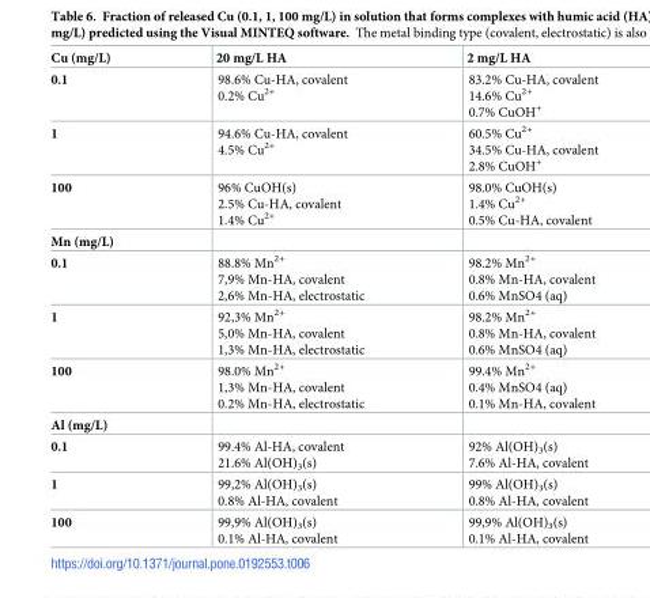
<table><thead><tr><td>Cu (mg/L)</td><td>20 mg/L HA</td><td>2 mg/L HA</td></tr></thead><tbody><tr><td>0.1</td><td>98.6% Cu-HA, covalent 0.2% Cu<sup>2+</sup></td><td>83.2% Cu-HA, covalent 14.6% Cu<sup>2+</sup> 0.7% CuOH<sup>+</sup></td></tr><tr><td>1</td><td>94.6% Cu-HA, covalent 4.5% Cu<sup>2+</sup></td><td>60.5% Cu<sup>2+</sup> 34.5% Cu-HA, covalent 2.8% CuOH<sup>+</sup></td></tr><tr><td>100</td><td>96% CuOH(s) 2.5% Cu-HA, covalent 1.4% Cu<sup>2+</sup></td><td>98.0% CuOH(s) 1.4% Cu<sup>2+</sup> 0.5% Cu-HA, covalent</td></tr><tr><td colspan="3">Mn (mg/L)</td></tr><tr><td>0.1</td><td>88.8% Mn<sup>2+</sup> 7,9% Mn-HA, covalent 2,6% Mn-HA, electrostatic</td><td>98.2% Mn<sup>2+</sup> 0.8% Mn-HA, covalent 0.6% MnSO4 (aq)</td></tr><tr><td>1</td><td>92,3% Mn<sup>2+</sup> 5,0% Mn-HA, covalent 1,3% Mn-HA, electrostatic</td><td>98.2% Mn<sup>2+</sup> 0.8% Mn-HA, covalent 0.6% MnSO4 (aq)</td></tr><tr><td>100</td><td>98.0% Mn<sup>2+</sup> 1,3% Mn-HA, covalent 0.2% Mn-HA, electrostatic</td><td>99.4% Mn<sup>2+</sup> 0.4% MnSO4 (aq) 0.1% Mn-HA, covalent</td></tr><tr><td colspan="3">Al (mg/L)</td></tr><tr><td>0.1</td><td>99.4% Al-HA, covalent 21.6% Al(OH)<sub>3</sub>(s)</td><td>92% Al(OH)<sub>3</sub>(s) 7.6% Al-HA, covalent</td></tr><tr><td>1</td><td>99,2% Al(OH)<sub>3</sub>(s) 0.8% Al-HA, covalent</td><td>99% Al(OH)<sub>3</sub>(s) 0.8% Al-HA, covalent</td></tr><tr><td>100</td><td>99,9% Al(OH)<sub>3</sub>(s) 0.1% Al-HA, covalent</td><td>99,9% Al(OH)<sub>3</sub>(s) 0.1% Al-HA, covalent</td></tr></tbody></table>